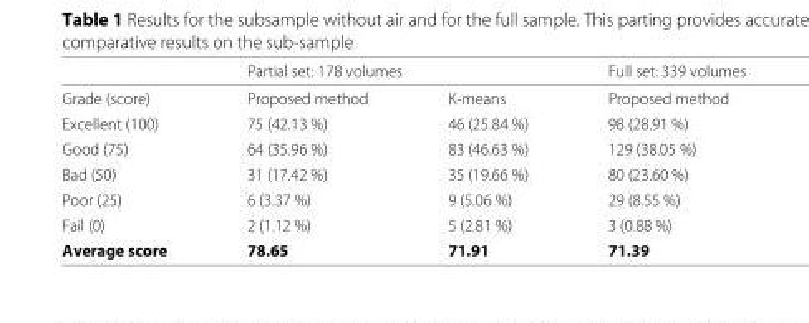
<table><thead><tr><td rowspan="2">Grade (score)</td><td colspan="2">Partial set: 178 volumes</td><td rowspan="2">Full set: 339 volumes Proposed method</td></tr><tr><td>Proposed method</td><td>K-means</td></tr></thead><tbody><tr><td>Excellent (100)</td><td>75 (42.13 %)</td><td>46 (25.84 %)</td><td>98 (28.91 %)</td></tr><tr><td>Good (75)</td><td>64 (35.96 %)</td><td>83 (46.63 %)</td><td>129 (38.05 %)</td></tr><tr><td>Bad (50)</td><td>31 (17.42 %)</td><td>35 (19.66 %)</td><td>80 (23.60 %)</td></tr><tr><td>Poor (25)</td><td>6 (3.37 %)</td><td>9 (5.06 %)</td><td>29 (8.55 %)</td></tr><tr><td>Fail (0)</td><td>2 (1.12 %)</td><td>5 (2.81 %)</td><td>3 (0.88 %)</td></tr><tr><td>Average score</td><td>78.65</td><td>71.91</td><td>71.39</td></tr></tbody></table>